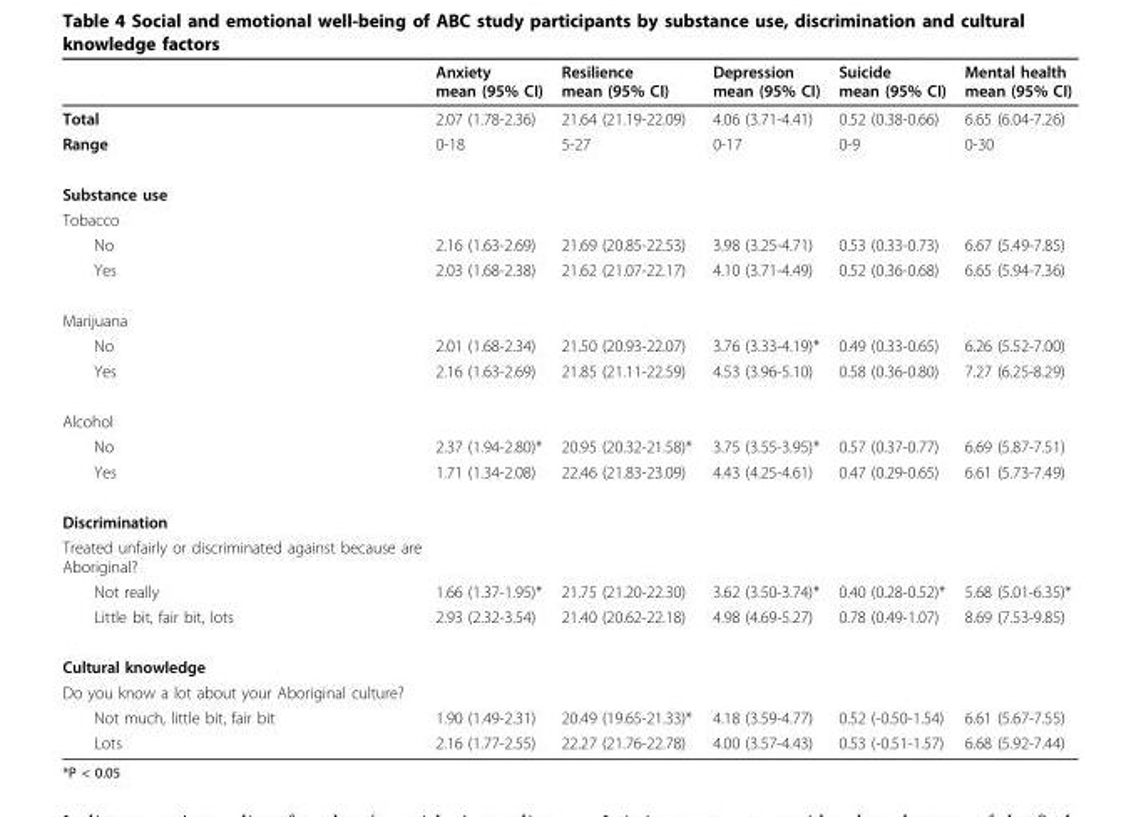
<table><thead><tr><td></td><td>Anxiety mean (95% CI)</td><td>Resilience mean (95% CI)</td><td>Depression mean (95% CI)</td><td>Suicide mean (95% CI)</td><td>Mental health mean (95% CI)</td></tr></thead><tbody><tr><td>Total</td><td>2.07 (1.78-2.36)</td><td>21.64 (21.19-22.09)</td><td>4.06 (3.71-4.41)</td><td>0.52 (0.38-0.66)</td><td>6.65 (6.04-7.26)</td></tr><tr><td>Range</td><td>0-18</td><td>5-27</td><td>0-17</td><td>0-9</td><td>0-30</td></tr><tr><td colspan="6">Substance use</td></tr><tr><td colspan="6">Tobacco</td></tr><tr><td>No</td><td>2.16 (1.63-2.69)</td><td>21.69 (20.85-22.53)</td><td>3.98 (3.25-4.71)</td><td>0.53 (0.33-0.73)</td><td>6.67 (5.49-7.85)</td></tr><tr><td>Yes</td><td>2.03 (1.68-2.38)</td><td>21.62 (21.07-22.17)</td><td>4.10 (3.71-4.49)</td><td>0.52 (0.36-0.68)</td><td>6.65 (5.94-7.36)</td></tr><tr><td colspan="6">Marijuana</td></tr><tr><td>No</td><td>2.01 (1.68-2.34)</td><td>21.50 (20.93-22.07)</td><td>3.76 (3.33-4.19)*</td><td>0.49 (0.33-0.65)</td><td>6.26 (5.52-7.00)</td></tr><tr><td>Yes</td><td>2.16 (1.63-2.69)</td><td>21.85 (21.11-22.59)</td><td>4.53 (3.96-5.10)</td><td>0.58 (0.36-0.80)</td><td>7.27 (6.25-8.29)</td></tr><tr><td colspan="6">Alcohol</td></tr><tr><td>No</td><td>2.37 (1.94-2.80)*</td><td>20.95 (20.32-21.58)*</td><td>3.75 (3.55-3.95)*</td><td>0.57 (0.37-0.77)</td><td>6.69 (5.87-7.51)</td></tr><tr><td>Yes</td><td>1.71 (1.34-2.08)</td><td>22.46 (21.83-23.09)</td><td>4.43 (4.25-4.61)</td><td>0.47 (0.29-0.65)</td><td>6.61 (5.73-7.49)</td></tr><tr><td colspan="6">Discrimination</td></tr><tr><td colspan="6">Treated unfairly or discriminated against because are Aboriginal?</td></tr><tr><td>Not really</td><td>1.66 (1.37-1.95)*</td><td>21.75 (21.20-22.30)</td><td>3.62 (3.50-3.74)*</td><td>0.40 (0.28-0.52)*</td><td>5.68 (5.01-6.35)*</td></tr><tr><td>Little bit, fair bit, lots</td><td>2.93 (2.32-3.54)</td><td>21.40 (20.62-22.18)</td><td>4.98 (4.69-5.27)</td><td>0.78 (0.49-1.07)</td><td>8.69 (7.53-9.85)</td></tr><tr><td colspan="6">Cultural knowledge</td></tr><tr><td colspan="6">Do you know a lot about your Aboriginal culture?</td></tr><tr><td>Not much, little bit, fair bit</td><td>1.90 (1.49-2.31)</td><td>20.49 (19.65-21.33)*</td><td>4.18 (3.59-4.77)</td><td>0.52 (-0.50-1.54)</td><td>6.61 (5.67-7.55)</td></tr><tr><td>Lots</td><td>2.16 (1.77-2.55)</td><td>22.27 (21.76-22.78)</td><td>4.00 (3.57-4.43)</td><td>0.53 (-0.51-1.57)</td><td>6.68 (5.92-7.44)</td></tr></tbody></table>